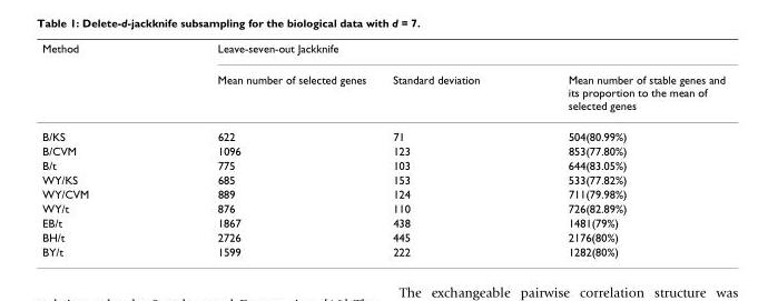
<table><thead><tr><td rowspan="2">Method</td><td colspan="3">Leave-seven-out Jackknife</td></tr><tr><td>Mean number of selected genes</td><td>Standard deviation</td><td>Mean number of stable genes and its proportion to the mean of selected genes</td></tr></thead><tbody><tr><td>B/KS</td><td>622</td><td>71</td><td>504(80.99%)</td></tr><tr><td>B/CVM</td><td>1096</td><td>123</td><td>853(77.80%)</td></tr><tr><td>B/t</td><td>775</td><td>103</td><td>644(83.05%)</td></tr><tr><td>WY/KS</td><td>685</td><td>153</td><td>533(77.82%)</td></tr><tr><td>WY/CVM</td><td>889</td><td>124</td><td>711(79.98%)</td></tr><tr><td>WY/t</td><td>876</td><td>110</td><td>726(82.89%)</td></tr><tr><td>EB/t</td><td>1867</td><td>438</td><td>1481(79%)</td></tr><tr><td>BH/t</td><td>2726</td><td>445</td><td>2176(80%)</td></tr><tr><td>BY/t</td><td>1599</td><td>222</td><td>1282(80%)</td></tr></tbody></table>